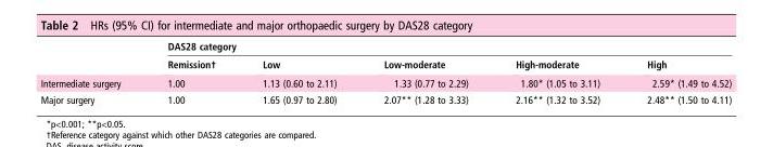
<table><thead><tr><td rowspan="2"></td><td colspan="5">DAS28 category</td></tr><tr><td>Remission†</td><td>Low</td><td>Low-moderate</td><td>High-moderate</td><td>High</td></tr></thead><tbody><tr><td>Intermediate surgery</td><td>1.00</td><td>1.13 (0.60 to 2.11)</td><td>1.33 (0.77 to 2.29)</td><td>1.80* (1.05 to 3.11)</td><td>2.59* (1.49 to 4.52)</td></tr><tr><td>Major surgery</td><td>1.00</td><td>1.65 (0.97 to 2.80)</td><td>2.07** (1.28 to 3.33)</td><td>2.16** (1.32 to 3.52)</td><td>2.48** (1.50 to 4.11)</td></tr></tbody></table>